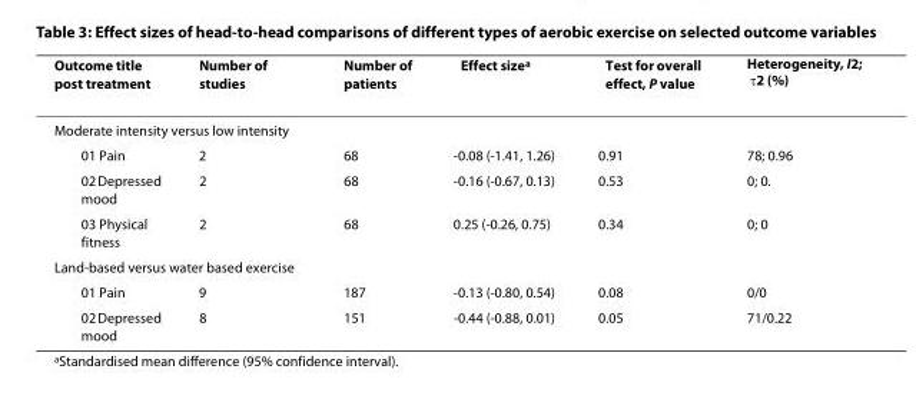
<table><thead><tr><td>Outcome title post treatment</td><td>Number of studies</td><td>Number of patients</td><td>Effect size<sup>a</sup></td><td>Test for overall effect, P value</td><td>Heterogeneity, I<sup>2</sup>; τ<sup>2</sup> (%)</td></tr></thead><tbody><tr><td colspan="6">Moderate intensity versus low intensity</td></tr><tr><td>01 Pain</td><td>2</td><td>68</td><td>-0.08 (-1.41, 1.26)</td><td>0.91</td><td>78; 0.96</td></tr><tr><td>02 Depressed mood</td><td>2</td><td>68</td><td>-0.16 (-0.67, 0.13)</td><td>0.53</td><td>0; 0.</td></tr><tr><td>03 Physical fitness</td><td>2</td><td>68</td><td>0.25 (-0.26, 0.75)</td><td>0.34</td><td>0; 0</td></tr><tr><td colspan="6">Land-based versus water based exercise</td></tr><tr><td>01 Pain</td><td>9</td><td>187</td><td>-0.13 (-0.80, 0.54)</td><td>0.08</td><td>0/0</td></tr><tr><td>02 Depressed mood</td><td>8</td><td>151</td><td>-0.44 (-0.88, 0.01)</td><td>0.05</td><td>71/0.22</td></tr></tbody></table>